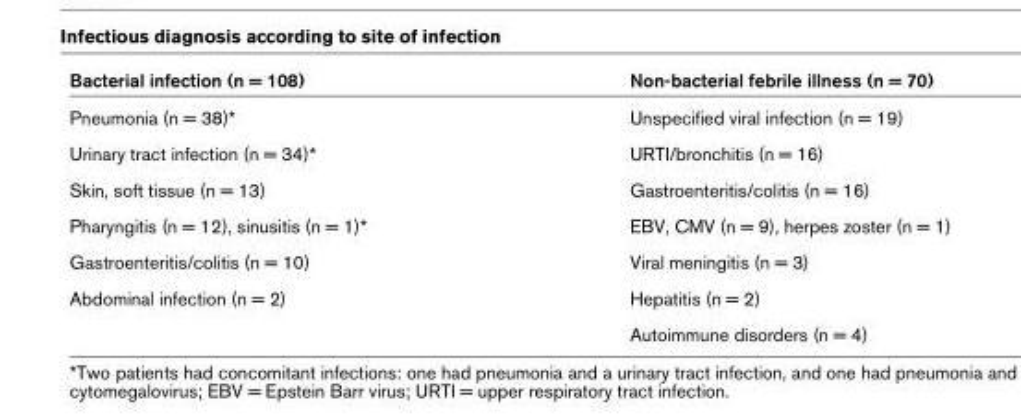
<table><thead><tr><td>Bacterial infection (n = 108)</td><td>Non-bacterial febrile illness (n = 70)</td></tr></thead><tbody><tr><td>Pneumonia (n = 38)*</td><td>Unspecified viral infection (n = 19)</td></tr><tr><td>Urinary tract infection (n = 34)*</td><td>URTI/bronchitis (n = 16)</td></tr><tr><td>Skin, soft tissue (n = 13)</td><td>Gastroenteritis/colitis (n = 16)</td></tr><tr><td>Pharyngitis (n = 12), sinusitis (n = 1)*</td><td>EBV, CMV (n = 9), herpes zoster (n = 1)</td></tr><tr><td>Gastroenteritis/colitis (n = 10)</td><td>Viral meningitis (n = 3)</td></tr><tr><td rowspan="2">Abdominal infection (n = 2)</td><td>Hepatitis (n = 2)</td></tr><tr><td>Autoimmune disorders (n = 4)</td></tr></tbody></table>